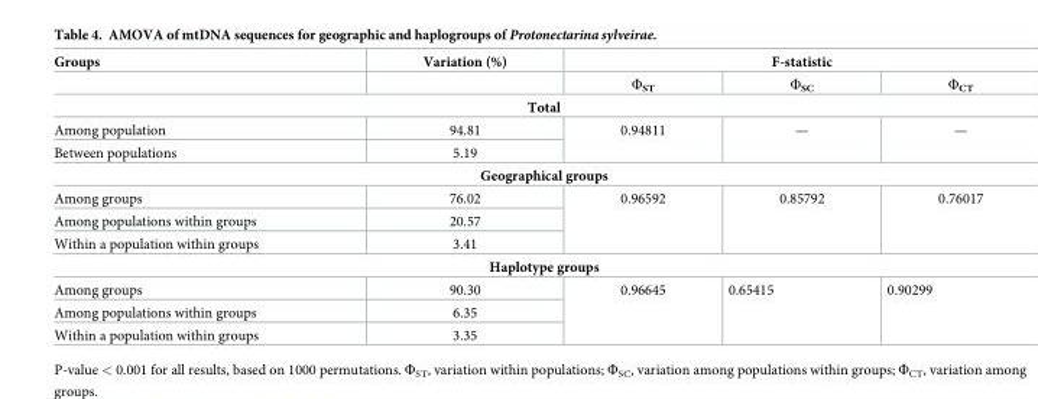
<table><thead><tr><td rowspan="2">Groups</td><td rowspan="2">Variation (%)</td><td colspan="3">F-statistic</td></tr><tr><td>Φ<sub>ST</sub></td><td>Φ<sub>SC</sub></td><td>Φ<sub>CT</sub></td></tr></thead><tbody><tr><td colspan="5">Total</td></tr><tr><td>Among population</td><td>94.81</td><td rowspan="2">0.94811</td><td rowspan="2">—</td><td rowspan="2">—</td></tr><tr><td>Between populations</td><td>5.19</td></tr><tr><td colspan="5">Geographical groups</td></tr><tr><td>Among groups</td><td>76.02</td><td rowspan="3">0.96592</td><td rowspan="3">0.85792</td><td rowspan="3">0.76017</td></tr><tr><td>Among populations within groups</td><td>20.57</td></tr><tr><td>Within a population within groups</td><td>3.41</td></tr><tr><td colspan="5">Haplotype groups</td></tr><tr><td>Among groups</td><td>90.30</td><td rowspan="3">0.96645</td><td rowspan="3">0.65415</td><td rowspan="3">0.90299</td></tr><tr><td>Among populations within groups</td><td>6.35</td></tr><tr><td>Within a population within groups</td><td>3.35</td></tr></tbody></table>